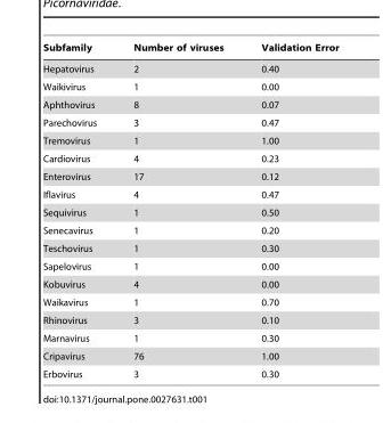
<table><thead><tr><td>Subfamily</td><td>Number of viruses</td><td>Validation Error</td></tr></thead><tbody><tr><td>Hepatovirus</td><td>2</td><td>0.40</td></tr><tr><td>Waikivirus</td><td>1</td><td>0.00</td></tr><tr><td>Aphthovirus</td><td>8</td><td>0.07</td></tr><tr><td>Parechovirus</td><td>3</td><td>0.47</td></tr><tr><td>Tremovirus</td><td>1</td><td>1.00</td></tr><tr><td>Cardiovirus</td><td>4</td><td>0.23</td></tr><tr><td>Enterovirus</td><td>17</td><td>0.12</td></tr><tr><td>Iflavirus</td><td>4</td><td>0.47</td></tr><tr><td>Sequivirus</td><td>1</td><td>0.50</td></tr><tr><td>Senecavirus</td><td>1</td><td>0.20</td></tr><tr><td>Teschovirus</td><td>1</td><td>0.30</td></tr><tr><td>Sapelovirus</td><td>1</td><td>0.00</td></tr><tr><td>Kobuvirus</td><td>4</td><td>0.00</td></tr><tr><td>Waikavirus</td><td>1</td><td>0.70</td></tr><tr><td>Rhinovirus</td><td>3</td><td>0.10</td></tr><tr><td>Marnavirus</td><td>1</td><td>0.30</td></tr><tr><td>Cripavirus</td><td>76</td><td>1.00</td></tr><tr><td>Erbovirus</td><td>3</td><td>0.30</td></tr></tbody></table>